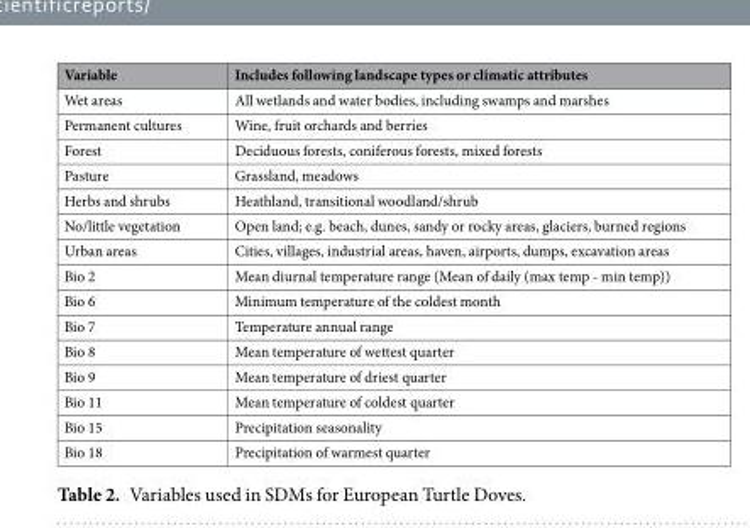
<table><thead><tr><td>Variable</td><td>Includes following landscape types or climatic attributes</td></tr></thead><tbody><tr><td>Wet areas</td><td>All wetlands and water bodies, including swamps and marshes</td></tr><tr><td>Permanent cultures</td><td>Wine, fruit orchards and berries</td></tr><tr><td>Forest</td><td>Deciduous forests, coniferous forests, mixed forests</td></tr><tr><td>Pasture</td><td>Grassland, meadows</td></tr><tr><td>Herbs and shrubs</td><td>Heathland, transitional woodland/shrub</td></tr><tr><td>No/little vegetation</td><td>Open land; e.g. beach, dunes, sandy or rocky areas, glaciers, burned regions</td></tr><tr><td>Urban areas</td><td>Cities, villages, industrial areas, haven, airports, dumps, excavation areas</td></tr><tr><td>Bio 2</td><td>Mean diurnal temperature range (Mean of daily (max temp - min temp))</td></tr><tr><td>Bio 6</td><td>Minimum temperature of the coldest month</td></tr><tr><td>Bio 7</td><td>Temperature annual range</td></tr><tr><td>Bio 8</td><td>Mean temperature of wettest quarter</td></tr><tr><td>Bio 9</td><td>Mean temperature of driest quarter</td></tr><tr><td>Bio 11</td><td>Mean temperature of coldest quarter</td></tr><tr><td>Bio 15</td><td>Precipitation seasonality</td></tr><tr><td>Bio 18</td><td>Precipitation of warmest quarter</td></tr></tbody></table>